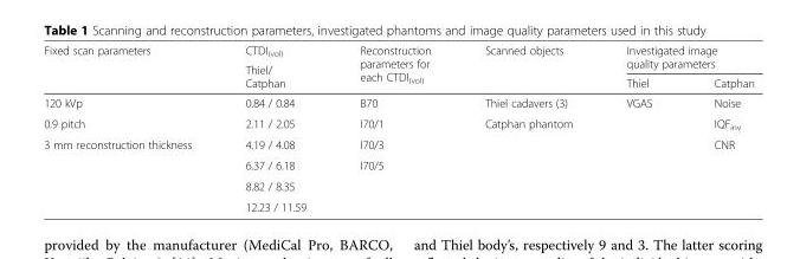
<table><thead><tr><td rowspan="3">Fixed scan parameters</td><td rowspan="3">CTDI<sub>(vol)</sub> Thiel/ Catphan</td><td rowspan="3">Reconstruction parameters for each CTDI<sub>(vol)</sub></td><td rowspan="3">Scanned objects</td><td rowspan="2" colspan="2">Investigated image quality parameters</td></tr><tr></tr><tr><td>Thiel</td><td>Catphan</td></tr></thead><tbody><tr><td>120 kVp</td><td>0.84 / 0.84</td><td>B70</td><td>Thiel cadavers (3)</td><td>VGAS</td><td>Noise</td></tr><tr><td>0.9 pitch</td><td>2.11 / 2.05</td><td>I70/1</td><td>Catphan phantom</td><td></td><td>IQF<sub>inv</sub></td></tr><tr><td rowspan="4">3 mm reconstruction thickness</td><td>4.19 / 4.08</td><td>I70/3</td><td></td><td></td><td>CNR</td></tr><tr><td>6.37 / 6.18</td><td>I70/5</td><td></td><td></td><td></td></tr><tr><td>8.82 / 8.35</td><td></td><td></td><td></td><td></td></tr><tr><td>12.23 / 11.59</td><td></td><td></td><td></td><td></td></tr></tbody></table>